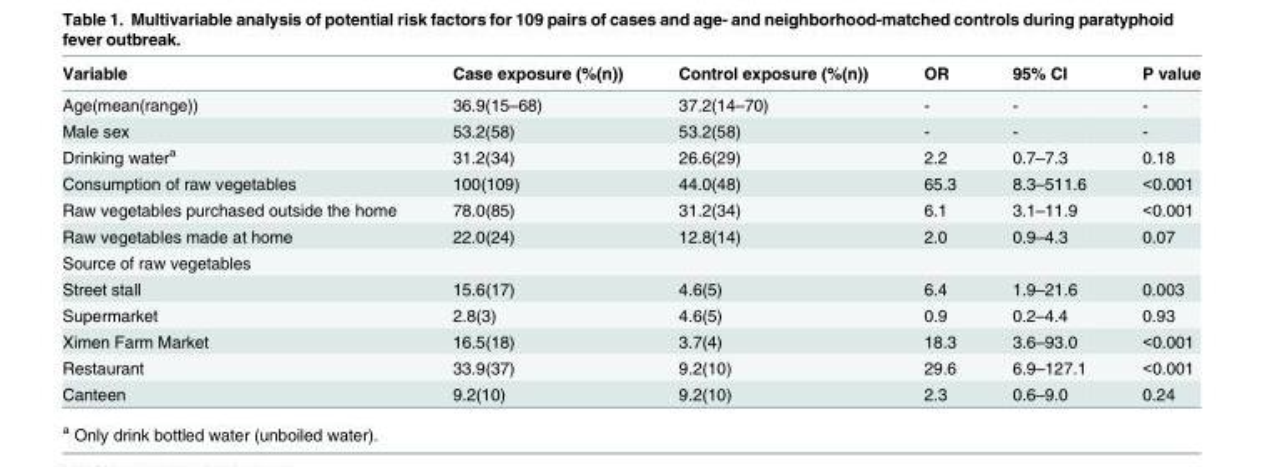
<table><thead><tr><td>Variable</td><td>Case exposure (%(n))</td><td>Control exposure (%(n))</td><td>OR</td><td>95% CI</td><td>P value</td></tr></thead><tbody><tr><td>Age(mean(range))</td><td>36.9(15–68)</td><td>37.2(14–70)</td><td>-</td><td>-</td><td>-</td></tr><tr><td>Male sex</td><td>53.2(58)</td><td>53.2(58)</td><td>-</td><td>-</td><td>-</td></tr><tr><td>Drinking water<sup>a</sup></td><td>31.2(34)</td><td>26.6(29)</td><td>2.2</td><td>0.7–7.3</td><td>0.18</td></tr><tr><td>Consumption of raw vegetables</td><td>100(109)</td><td>44.0(48)</td><td>65.3</td><td>8.3–511.6</td><td>&lt;0.001</td></tr><tr><td>Raw vegetables purchased outside the home</td><td>78.0(85)</td><td>31.2(34)</td><td>6.1</td><td>3.1–11.9</td><td>&lt;0.001</td></tr><tr><td>Raw vegetables made at home</td><td>22.0(24)</td><td>12.8(14)</td><td>2.0</td><td>0.9–4.3</td><td>0.07</td></tr><tr><td colspan="6">Source of raw vegetables</td></tr><tr><td>Street stall</td><td>15.6(17)</td><td>4.6(5)</td><td>6.4</td><td>1.9–21.6</td><td>0.003</td></tr><tr><td>Supermarket</td><td>2.8(3)</td><td>4.6(5)</td><td>0.9</td><td>0.2–4.4</td><td>0.93</td></tr><tr><td>Ximen Farm Market</td><td>16.5(18)</td><td>3.7(4)</td><td>18.3</td><td>3.6–93.0</td><td>&lt;0.001</td></tr><tr><td>Restaurant</td><td>33.9(37)</td><td>9.2(10)</td><td>29.6</td><td>6.9–127.1</td><td>&lt;0.001</td></tr><tr><td>Canteen</td><td>9.2(10)</td><td>9.2(10)</td><td>2.3</td><td>0.6–9.0</td><td>0.24</td></tr></tbody></table>